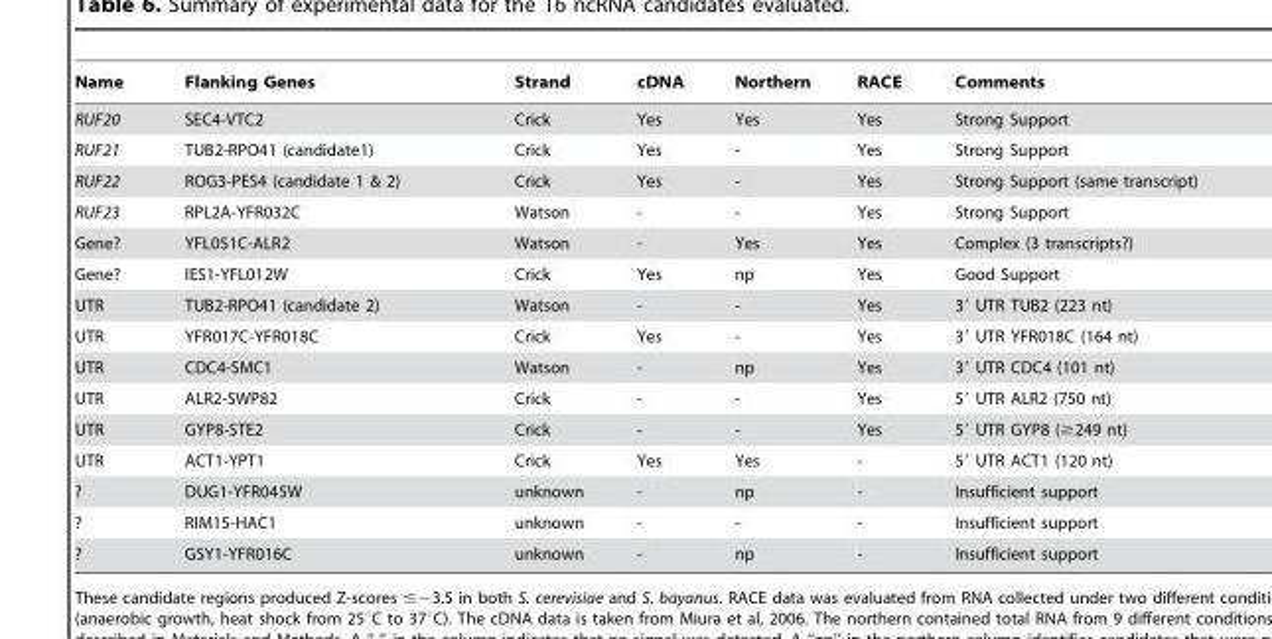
<table><thead><tr><td>Name</td><td>Flanking Genes</td><td>Strand</td><td>cDNA</td><td>Northern</td><td>RACE</td><td>Comments</td></tr></thead><tbody><tr><td>RUF20</td><td>SEC4-VTC2</td><td>Crick</td><td>Yes</td><td>Yes</td><td>Yes</td><td>Strong Support</td></tr><tr><td>RUF21</td><td>TUB2-RPO41 (candidate1)</td><td>Crick</td><td>Yes</td><td>-</td><td>Yes</td><td>Strong Support</td></tr><tr><td>RUF22</td><td>ROG3-PES4 (candidate 1 &amp; 2)</td><td>Crick</td><td>Yes</td><td>-</td><td>Yes</td><td>Strong Support (same transcript)</td></tr><tr><td>RUF23</td><td>RPL2A-YFR032C</td><td>Watson</td><td>-</td><td>-</td><td>Yes</td><td>Strong Support</td></tr><tr><td>Gene?</td><td>YFL051C-ALR2</td><td>Watson</td><td>-</td><td>Yes</td><td>Yes</td><td>Complex (3 transcripts?)</td></tr><tr><td>Gene?</td><td>IES1-YFL012W</td><td>Crick</td><td>Yes</td><td>np</td><td>Yes</td><td>Good Support</td></tr><tr><td>UTR</td><td>TUB2-RPO41 (candidate 2)</td><td>Watson</td><td>-</td><td>-</td><td>Yes</td><td>3′ UTR TUB2 (223 nt)</td></tr><tr><td>UTR</td><td>YFR017C-YFR018C</td><td>Crick</td><td>Yes</td><td>-</td><td>Yes</td><td>3′ UTR YFR018C (164 nt)</td></tr><tr><td>UTR</td><td>CDC4-SMC1</td><td>Watson</td><td>-</td><td>np</td><td>Yes</td><td>3′ UTR CDC4 (101 nt)</td></tr><tr><td>UTR</td><td>ALR2-SWP82</td><td>Crick</td><td>-</td><td>-</td><td>Yes</td><td>5′ UTR ALR2 (750 nt)</td></tr><tr><td>UTR</td><td>GYP8-STE2</td><td>Crick</td><td>-</td><td>-</td><td>Yes</td><td>5′ UTR GYP8 (≥249 nt)</td></tr><tr><td>UTR</td><td>ACT1-YPT1</td><td>Crick</td><td>Yes</td><td>Yes</td><td>-</td><td>5′ UTR ACT1 (120 nt)</td></tr><tr><td>?</td><td>DUG1-YFR045W</td><td>unknown</td><td>-</td><td>np</td><td>-</td><td>Insufficient support</td></tr><tr><td>?</td><td>RIM15-HAC1</td><td>unknown</td><td>-</td><td>-</td><td>-</td><td>Insufficient support</td></tr><tr><td>?</td><td>GSY1-YFR016C</td><td>unknown</td><td>-</td><td>np</td><td>-</td><td>Insufficient support</td></tr></tbody></table>